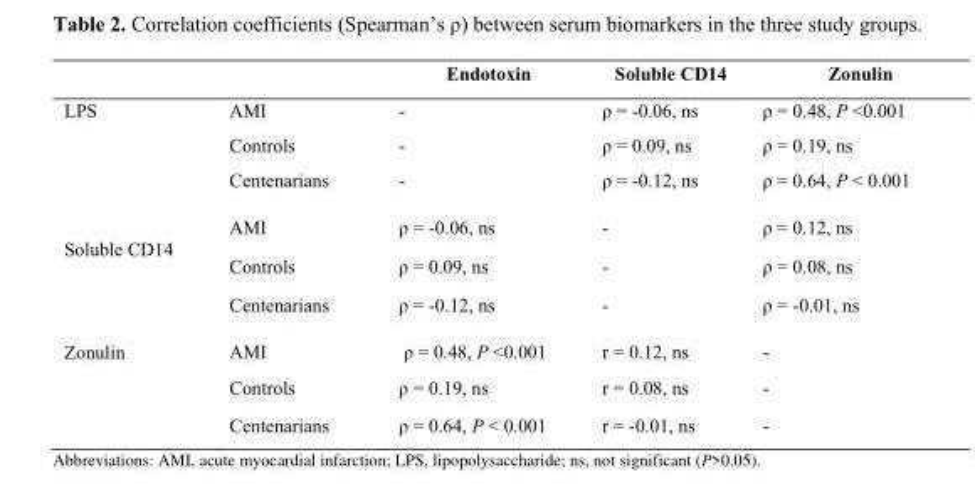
<table><thead><tr><td></td><td></td><td>Endotoxin</td><td>Soluble CD14</td><td>Zonulin</td></tr></thead><tbody><tr><td rowspan="3">LPS</td><td>AMI</td><td>-</td><td>ρ = -0.06, ns</td><td>ρ = 0.48, P &lt;0.001</td></tr><tr><td>Controls</td><td>-</td><td>ρ = 0.09, ns</td><td>ρ = 0.19, ns</td></tr><tr><td>Centenarians</td><td>-</td><td>ρ = -0.12, ns</td><td>ρ = 0.64, P &lt; 0.001</td></tr><tr><td rowspan="3">Soluble CD14</td><td>AMI</td><td>ρ = -0.06, ns</td><td>-</td><td>ρ = 0.12, ns</td></tr><tr><td>Controls</td><td>ρ = 0.09, ns</td><td>-</td><td>ρ = 0.08, ns</td></tr><tr><td>Centenarians</td><td>ρ = -0.12, ns</td><td>-</td><td>ρ = -0.01, ns</td></tr><tr><td rowspan="3">Zonulin</td><td>AMI</td><td>ρ = 0.48, P &lt;0.001</td><td>r = 0.12, ns</td><td>-</td></tr><tr><td>Controls</td><td>ρ = 0.19, ns</td><td>r = 0.08, ns</td><td>-</td></tr><tr><td>Centenarians</td><td>ρ = 0.64, P &lt; 0.001</td><td>r = -0.01, ns</td><td>-</td></tr></tbody></table>